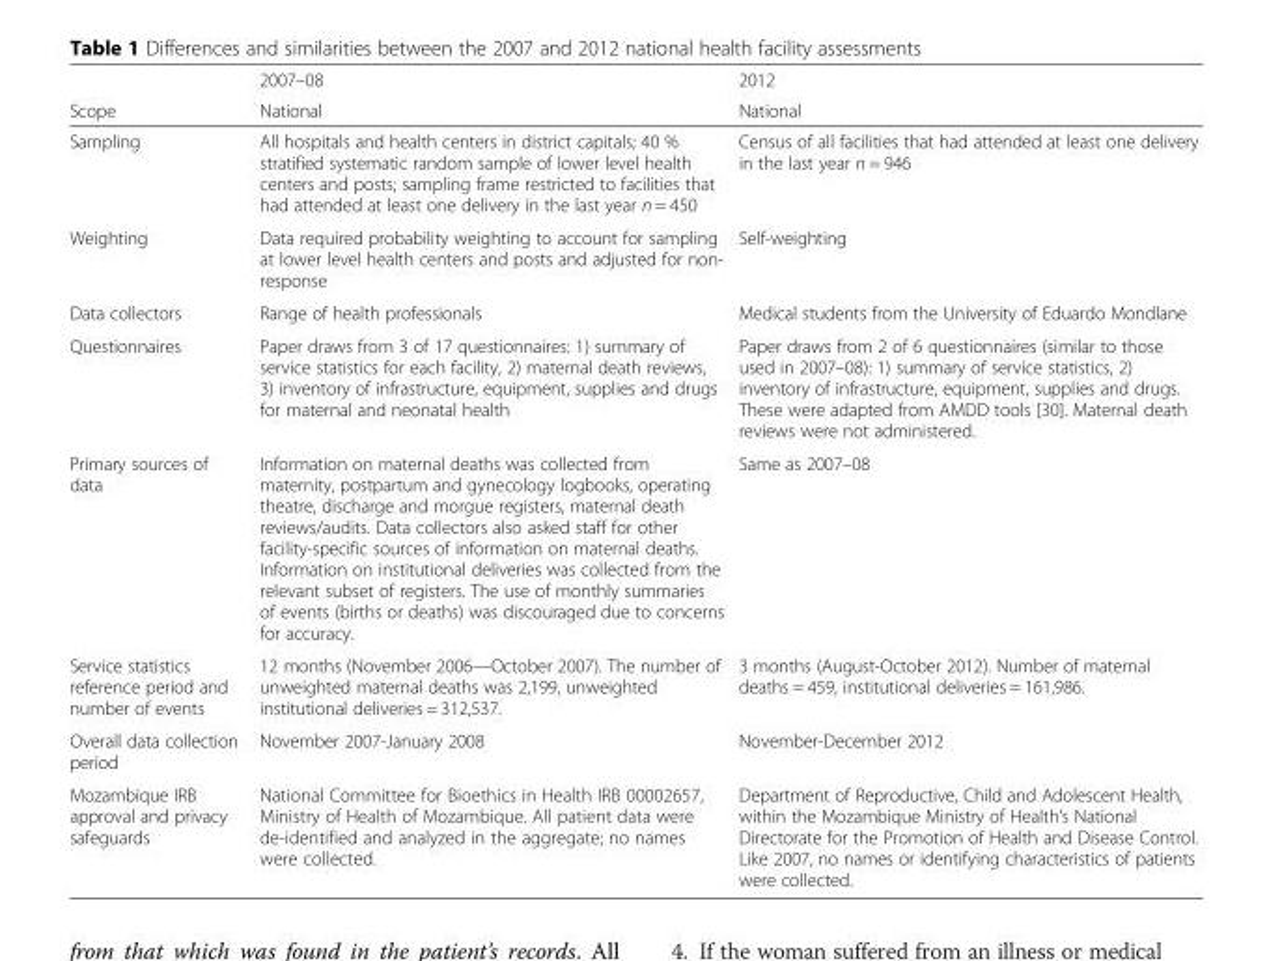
<table><thead><tr><td rowspan="2">Scope</td><td rowspan="2">2007–08 National</td><td rowspan="2">2012 National</td></tr><tr></tr></thead><tbody><tr><td>Sampling</td><td>All hospitals and health centers in district capitals; 40 % stratified systematic random sample of lower level health centers and posts; sampling frame restricted to facilities that had attended at least one delivery in the last year n = 450</td><td>Census of all facilities that had attended at least one delivery in the last year n = 946</td></tr><tr><td>Weighting</td><td>Data required probability weighting to account for sampling at lower level health centers and posts and adjusted for non- response</td><td>Self-weighting</td></tr><tr><td>Data collectors</td><td>Range of health professionals</td><td>Medical students from the University of Eduardo Mondlane</td></tr><tr><td>Questionnaires</td><td>Paper draws from 3 of 17 questionnaires: 1) summary of service statistics for each facility, 2) maternal death reviews, 3) inventory of infrastructure, equipment, supplies and drugs for maternal and neonatal health</td><td>Paper draws from 2 of 6 questionnaires (similar to those used in 2007–08): 1) summary of service statistics, 2) inventory of infrastructure, equipment, supplies and drugs. These were adapted from AMDD tools [30]. Maternal death reviews were not administered.</td></tr><tr><td>Primary sources of data</td><td>Information on maternal deaths was collected from maternity, postpartum and gynecology logbooks, operating theatre, discharge and morgue registers, maternal death reviews/audits. Data collectors also asked staff for other facility-specific sources of information on maternal deaths. Information on institutional deliveries was collected from the relevant subset of registers. The use of monthly summaries of events (births or deaths) was discouraged due to concerns for accuracy.</td><td>Same as 2007–08</td></tr><tr><td>Service statistics reference period and number of events</td><td>12 months (November 2006—October 2007). The number of unweighted maternal deaths was 2,199, unweighted institutional deliveries = 312,537.</td><td>3 months (August-October 2012). Number of maternal deaths = 459, institutional deliveries = 161,986.</td></tr><tr><td>Overall data collection period</td><td>November 2007-January 2008</td><td>November-December 2012</td></tr><tr><td>Mozambique IRB approval and privacy safeguards</td><td>National Committee for Bioethics in Health IRB 00002657, Ministry of Health of Mozambique. All patient data were de-identified and analyzed in the aggregate; no names were collected.</td><td>Department of Reproductive, Child and Adolescent Health, within the Mozambique Ministry of Health’s National Directorate for the Promotion of Health and Disease Control. Like 2007, no names or identifying characteristics of patients were collected.</td></tr></tbody></table>